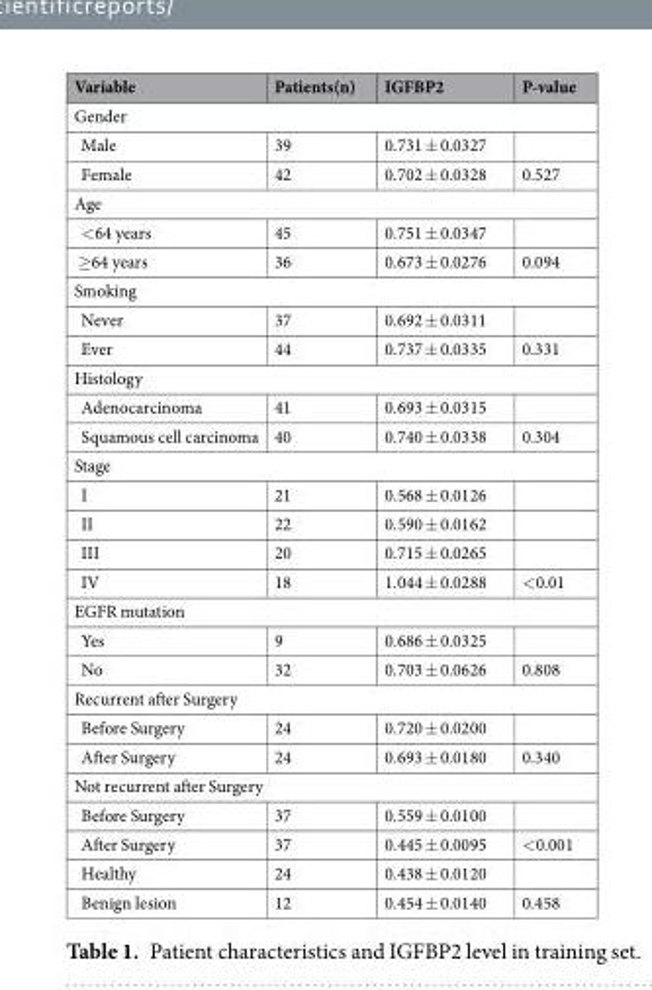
<table><thead><tr><td>Variable</td><td>Patients(n)</td><td>IGFBP2</td><td>P-value</td></tr></thead><tbody><tr><td colspan="4">Gender</td></tr><tr><td>Male</td><td>39</td><td>0.731 ± 0.0327</td><td></td></tr><tr><td>Female</td><td>42</td><td>0.702 ± 0.0328</td><td>0.527</td></tr><tr><td colspan="4">Age</td></tr><tr><td>&lt;64 years</td><td>45</td><td>0.751 ± 0.0347</td><td></td></tr><tr><td>≥64 years</td><td>36</td><td>0.673 ± 0.0276</td><td>0.094</td></tr><tr><td colspan="4">Smoking</td></tr><tr><td>Never</td><td>37</td><td>0.692 ± 0.0311</td><td></td></tr><tr><td>Ever</td><td>44</td><td>0.737 ± 0.0335</td><td>0.331</td></tr><tr><td colspan="4">Histology</td></tr><tr><td>Adenocarcinoma</td><td>41</td><td>0.693 ± 0.0315</td><td></td></tr><tr><td>Squamous cell carcinoma</td><td>40</td><td>0.740 ± 0.0338</td><td>0.304</td></tr><tr><td colspan="4">Stage</td></tr><tr><td>I</td><td>21</td><td>0.568 ± 0.0126</td><td></td></tr><tr><td>II</td><td>22</td><td>0.590 ± 0.0162</td><td></td></tr><tr><td>III</td><td>20</td><td>0.715 ± 0.0265</td><td></td></tr><tr><td>IV</td><td>18</td><td>1.044 ± 0.0288</td><td>&lt;0.01</td></tr><tr><td colspan="4">EGFR mutation</td></tr><tr><td>Yes</td><td>9</td><td>0.686 ± 0.0325</td><td></td></tr><tr><td>No</td><td>32</td><td>0.703 ± 0.0626</td><td>0.808</td></tr><tr><td colspan="4">Recurrent after Surgery</td></tr><tr><td>Before Surgery</td><td>24</td><td>0.720 ± 0.0200</td><td></td></tr><tr><td>After Surgery</td><td>24</td><td>0.693 ± 0.0180</td><td>0.340</td></tr><tr><td colspan="4">Not recurrent after Surgery</td></tr><tr><td>Before Surgery</td><td>37</td><td>0.559 ± 0.0100</td><td></td></tr><tr><td>After Surgery</td><td>37</td><td>0.445 ± 0.0095</td><td>&lt;0.001</td></tr><tr><td>Healthy</td><td>24</td><td>0.438 ± 0.0120</td><td></td></tr><tr><td>Benign lesion</td><td>12</td><td>0.454 ± 0.0140</td><td>0.458</td></tr></tbody></table>